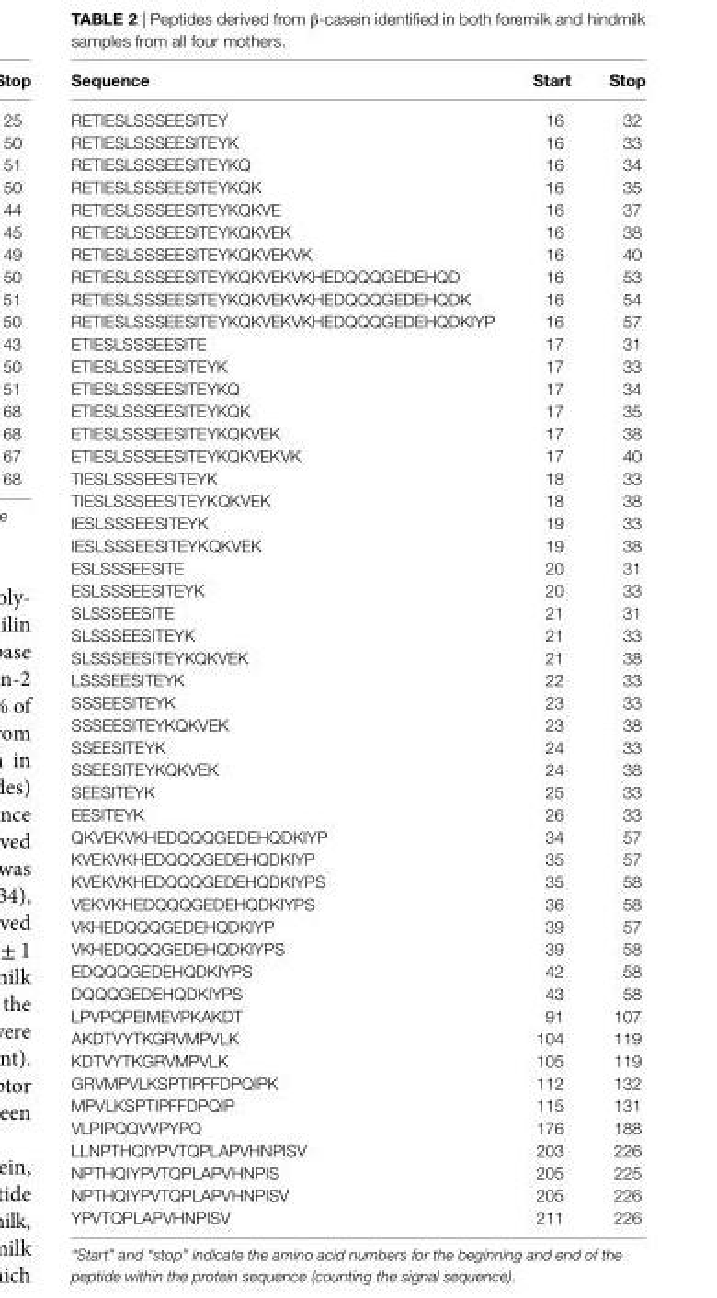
<table><thead><tr><td>sequence</td><td>start</td><td>stop</td></tr></thead><tbody><tr><td>RETIESLSSSEESITEY</td><td>16</td><td>32</td></tr><tr><td>RETIESLSSSEESITEYK</td><td>16</td><td>33</td></tr><tr><td>RETIESLSSSEESITEYKQ</td><td>16</td><td>34</td></tr><tr><td>RETIESLSSSEESITEYKQK</td><td>16</td><td>35</td></tr><tr><td>RETIESLSSSEESITEYKQKVE</td><td>16</td><td>37</td></tr><tr><td>RETIESLSSSEESITEYKQKVEK</td><td>16</td><td>38</td></tr><tr><td>RETIESLSSSEESITEYKQKVEKVK</td><td>16</td><td>40</td></tr><tr><td>RETIESLSSSEESITEYKQKVEKVKHEDQQQGEDEHQD</td><td>16</td><td>53</td></tr><tr><td>RETIESLSSSEESITEYKQKVEKVKHEDQQQGEDEHQDK</td><td>16</td><td>54</td></tr><tr><td>RETIESLSSSEESITEYKQKVEKVKHEDQQQGEDEHQDKIYP</td><td>16</td><td>57</td></tr><tr><td>ETIESLSSSEESITE</td><td>17</td><td>31</td></tr><tr><td>ETIESLSSSEESITEYK</td><td>17</td><td>33</td></tr><tr><td>ETIESLSSSEESITEYKQ</td><td>17</td><td>34</td></tr><tr><td>ETIESLSSSEESITEYKQK</td><td>17</td><td>35</td></tr><tr><td>ETIESLSSSEESITEYKQKVEK</td><td>17</td><td>38</td></tr><tr><td>ETIESLSSSEESITEYKQKVEKVK</td><td>17</td><td>40</td></tr><tr><td>TIESLSSSEESITEYK</td><td>18</td><td>33</td></tr><tr><td>TIESLSSSEESITEYKQKVEK</td><td>18</td><td>38</td></tr><tr><td>IESLSSSEESITEYK</td><td>19</td><td>33</td></tr><tr><td>IESLSSSEESITEYKQKVEK</td><td>19</td><td>38</td></tr><tr><td>ESLSSSEESITE</td><td>20</td><td>31</td></tr><tr><td>ESLSSSEESITEYK</td><td>20</td><td>33</td></tr><tr><td>SLSSSEESITE</td><td>21</td><td>31</td></tr><tr><td>SLSSSEESITEYK</td><td>21</td><td>33</td></tr><tr><td>SLSSSEESITEYKQKVEK</td><td>21</td><td>38</td></tr><tr><td>LSSSEESITEYK</td><td>22</td><td>33</td></tr><tr><td>SSSEESITEYK</td><td>23</td><td>33</td></tr><tr><td>SSSEESITEYKQKVEK</td><td>23</td><td>38</td></tr><tr><td>SSEESITEYK</td><td>24</td><td>33</td></tr><tr><td>SSEESITEYKQKVEK</td><td>24</td><td>38</td></tr><tr><td>SEESITEYK</td><td>25</td><td>33</td></tr><tr><td>EESITEYK</td><td>26</td><td>33</td></tr><tr><td>QKVEKVKHEDQQQGEDEHQDKIYP</td><td>34</td><td>57</td></tr><tr><td>KVEKVKHEDQQQGEDEHQDKIYP</td><td>35</td><td>57</td></tr><tr><td>KVEKVKHEDQQQGEDEHQDKIYPS</td><td>35</td><td>58</td></tr><tr><td>VEKVKHEDQQQGEDEHQDKIYPS</td><td>36</td><td>58</td></tr><tr><td>VKHEDQQQGEDEHQDKIYP</td><td>39</td><td>57</td></tr><tr><td>VKHEDQQQGEDEHQDKIYPS</td><td>39</td><td>58</td></tr><tr><td>EDQQQGEDEHQDKIYPS</td><td>42</td><td>58</td></tr><tr><td>DQQQGEDEHQDKIYPS</td><td>43</td><td>58</td></tr><tr><td>LPVPQPEIMEVPKAKDT</td><td>91</td><td>107</td></tr><tr><td>AKDTVYTKGRVMPVLK</td><td>104</td><td>119</td></tr><tr><td>KDTVYTKGRVMPVLK</td><td>105</td><td>119</td></tr><tr><td>GRVMPVLKSPTIPFFDPQIPK</td><td>112</td><td>132</td></tr><tr><td>MPVLKSPTIPFFDPQIP</td><td>115</td><td>131</td></tr><tr><td>VLPIPQQVVPYPQ</td><td>176</td><td>188</td></tr><tr><td>LLNPTHQIYPVTQPLAPVHNPISV</td><td>203</td><td>226</td></tr><tr><td>NPTHQIYPVTQPLAPVHNPIS</td><td>205</td><td>225</td></tr><tr><td>NPTHQIYPVTQPLAPVHNPISV</td><td>205</td><td>226</td></tr><tr><td>YPVTQPLAPVHNPISV</td><td>211</td><td>226</td></tr></tbody></table>